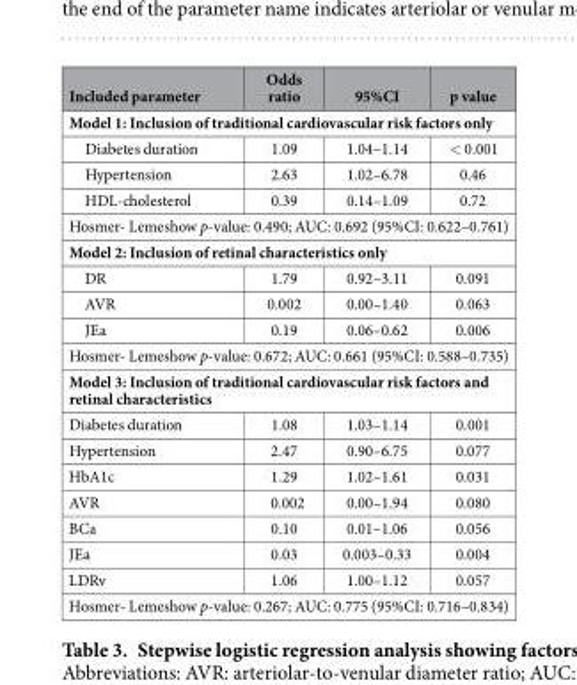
<table><thead><tr><td>Included parameter</td><td>Odds ratio</td><td>95%CI</td><td>p value</td></tr></thead><tbody><tr><td colspan="4">Model 1: Inclusion of traditional cardiovascular risk factors only</td></tr><tr><td>Diabetes duration</td><td>1.09</td><td>1.04–1.14</td><td>&lt; 0.001</td></tr><tr><td>Hypertension</td><td>2.63</td><td>1.02–6.78</td><td>0.46</td></tr><tr><td>HDL-cholesterol</td><td>0.39</td><td>0.14–1.09</td><td>0.72</td></tr><tr><td colspan="4">Hosmer- Lemeshow p-value: 0.490; AUC: 0.692 (95%CI: 0.622–0.761)</td></tr><tr><td colspan="4">Model 2: Inclusion of retinal characteristics only</td></tr><tr><td>DR</td><td>1.79</td><td>0.92–3.11</td><td>0.091</td></tr><tr><td>AVR</td><td>0.002</td><td>0.00–1.40</td><td>0.063</td></tr><tr><td>JEa</td><td>0.19</td><td>0.06–0.62</td><td>0.006</td></tr><tr><td colspan="4">Hosmer- Lemeshow p-value: 0.672; AUC: 0.661 (95%CI: 0.588–0.735)</td></tr><tr><td colspan="4">Model 3: Inclusion of traditional cardiovascular risk factors and retinal characteristics</td></tr><tr><td>Diabetes duration</td><td>1.08</td><td>1.03–1.14</td><td>0.001</td></tr><tr><td>Hypertension</td><td>2.47</td><td>0.90–6.75</td><td>0.077</td></tr><tr><td>HbA1c</td><td>1.29</td><td>1.02–1.61</td><td>0.031</td></tr><tr><td>AVR</td><td>0.002</td><td>0.00–1.94</td><td>0.080</td></tr><tr><td>BCa</td><td>0.10</td><td>0.01–1.06</td><td>0.056</td></tr><tr><td>JEa</td><td>0.03</td><td>0.003–0.33</td><td>0.004</td></tr><tr><td>LDRv</td><td>1.06</td><td>1.00–1.12</td><td>0.057</td></tr><tr><td colspan="4">Hosmer- Lemeshow p-value: 0.267; AUC: 0.775 (95%CI: 0.716–0.834)</td></tr></tbody></table>